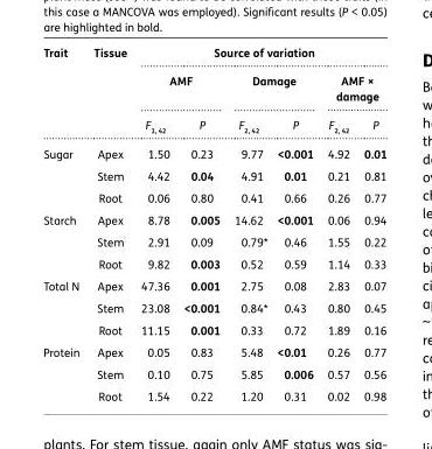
<table><thead><tr><td rowspan="3">Trait</td><td rowspan="3">Tissue</td><td colspan="6">Source of variation</td></tr><tr><td colspan="2">AMF</td><td colspan="2">Damage</td><td colspan="2">AMF × damage</td></tr><tr><td>F<sub>1, 42</sub></td><td>P</td><td>F<sub>2, 42</sub></td><td>P</td><td>F<sub>2, 42</sub></td><td>P</td></tr></thead><tbody><tr><td rowspan="3">Sugar</td><td>Apex</td><td>1.50</td><td>0.23</td><td>9.77</td><td>&lt;0.001</td><td>4.92</td><td>0.01</td></tr><tr><td>Stem</td><td>4.42</td><td>0.04</td><td>4.91</td><td>0.01</td><td>0.21</td><td>0.81</td></tr><tr><td>Root</td><td>0.06</td><td>0.80</td><td>0.41</td><td>0.66</td><td>0.26</td><td>0.77</td></tr><tr><td rowspan="3">Starch</td><td>Apex</td><td>8.78</td><td>0.005</td><td>14.62</td><td>&lt;0.001</td><td>0.06</td><td>0.94</td></tr><tr><td>Stem</td><td>2.91</td><td>0.09</td><td>0.79*</td><td>0.46</td><td>1.55</td><td>0.22</td></tr><tr><td>Root</td><td>9.82</td><td>0.003</td><td>0.52</td><td>0.59</td><td>1.14</td><td>0.33</td></tr><tr><td rowspan="3">Total N</td><td>Apex</td><td>47.36</td><td>0.001</td><td>2.75</td><td>0.08</td><td>2.83</td><td>0.07</td></tr><tr><td>Stem</td><td>23.08</td><td>&lt;0.001</td><td>0.84*</td><td>0.43</td><td>0.80</td><td>0.45</td></tr><tr><td>Root</td><td>11.15</td><td>0.001</td><td>0.33</td><td>0.72</td><td>1.89</td><td>0.16</td></tr><tr><td rowspan="3">Protein</td><td>Apex</td><td>0.05</td><td>0.83</td><td>5.48</td><td>&lt;0.01</td><td>0.26</td><td>0.77</td></tr><tr><td>Stem</td><td>0.10</td><td>0.75</td><td>5.85</td><td>0.006</td><td>0.57</td><td>0.56</td></tr><tr><td>Root</td><td>1.54</td><td>0.22</td><td>1.20</td><td>0.31</td><td>0.02</td><td>0.98</td></tr></tbody></table>